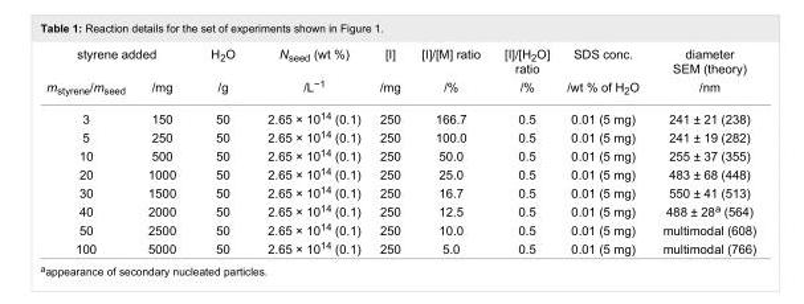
<table><tbody><tr><td colspan="2">styrene added</td><td>H<sub>2</sub>O</td><td>N<sub>seed</sub> (wt %)</td><td>[I]</td><td>[I]/[M] ratio</td><td>[I]/[H<sub>2</sub>O] ratio</td><td>SDS conc.</td><td>diameter SEM (theory)</td></tr><tr><td>m<sub>styrene</sub>/m<sub>seed</sub></td><td>/mg</td><td>/g</td><td>/L<sup>−1</sup></td><td>/mg</td><td>/%</td><td>/%</td><td>/wt % of H<sub>2</sub>O</td><td>/nm</td></tr><tr><td>3</td><td>150</td><td>50</td><td>2.65 × 10<sup>14</sup> (0.1)</td><td>250</td><td>166.7</td><td>0.5</td><td>0.01 (5 mg)</td><td>241 ± 21 (238)</td></tr><tr><td>5</td><td>250</td><td>50</td><td>2.65 × 10<sup>14</sup> (0.1)</td><td>250</td><td>100.0</td><td>0.5</td><td>0.01 (5 mg)</td><td>241 ± 19 (282)</td></tr><tr><td>10</td><td>500</td><td>50</td><td>2.65 × 10<sup>14</sup> (0.1)</td><td>250</td><td>50.0</td><td>0.5</td><td>0.01 (5 mg)</td><td>255 ± 37 (355)</td></tr><tr><td>20</td><td>1000</td><td>50</td><td>2.65 × 10<sup>14</sup> (0.1)</td><td>250</td><td>25.0</td><td>0.5</td><td>0.01 (5 mg)</td><td>483 ± 68 (448)</td></tr><tr><td>30</td><td>1500</td><td>50</td><td>2.65 × 10<sup>14</sup> (0.1)</td><td>250</td><td>16.7</td><td>0.5</td><td>0.01 (5 mg)</td><td>550 ± 41 (513)</td></tr><tr><td>40</td><td>2000</td><td>50</td><td>2.65 × 10<sup>14</sup> (0.1)</td><td>250</td><td>12.5</td><td>0.5</td><td>0.01 (5 mg)</td><td>488 ± 28<sup>a</sup> (564)</td></tr><tr><td>50</td><td>2500</td><td>50</td><td>2.65 × 10<sup>14</sup> (0.1)</td><td>250</td><td>10.0</td><td>0.5</td><td>0.01 (5 mg)</td><td>multimodal (608)</td></tr><tr><td>100</td><td>5000</td><td>50</td><td>2.65 × 10<sup>14</sup> (0.1)</td><td>250</td><td>5.0</td><td>0.5</td><td>0.01 (5 mg)</td><td>multimodal (766)</td></tr></tbody></table>